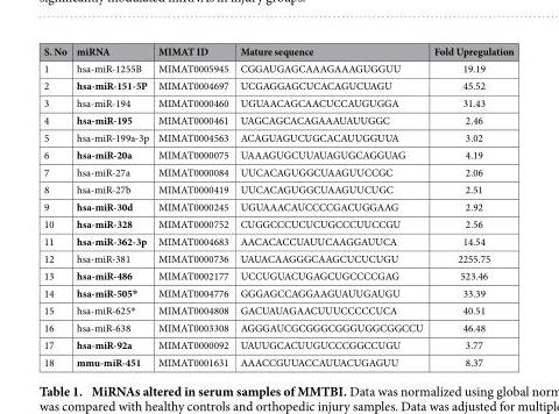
<table><thead><tr><td>S. No</td><td>miRNA</td><td>MIMAT ID</td><td>Mature sequence</td><td>Fold Upregulation</td></tr></thead><tbody><tr><td>1</td><td>hsa-miR-1255B</td><td>MIMAT0005945</td><td>CGGAUGAGCAAAGAAAGUGGUU</td><td>19.19</td></tr><tr><td>2</td><td>hsa-miR-151-5P</td><td>MIMAT0004697</td><td>UCGAGGAGCUCACAGUCUAGU</td><td>45.52</td></tr><tr><td>3</td><td>hsa-miR-194</td><td>MIMAT0000460</td><td>UGUAACAGCAACUCCAUGUGGA</td><td>31.43</td></tr><tr><td>4</td><td>hsa-miR-195</td><td>MIMAT0000461</td><td>UAGCAGCACAGAAAUAUUGGC</td><td>2.46</td></tr><tr><td>5</td><td>hsa-miR-199a-3p</td><td>MIMAT0004563</td><td>ACAGUAGUCUGCACAUUGGUUA</td><td>3.02</td></tr><tr><td>6</td><td>hsa-miR-20a</td><td>MIMAT0000075</td><td>UAAAGUGCUUAUAGUGCAGGUAG</td><td>4.19</td></tr><tr><td>7</td><td>hsa-miR-27a</td><td>MIMAT0000084</td><td>UUCACAGUGGCUAAGUUCCGC</td><td>2.06</td></tr><tr><td>8</td><td>hsa-miR-27b</td><td>MIMAT0000419</td><td>UUCACAGUGGCUAAGUUCUGC</td><td>2.51</td></tr><tr><td>9</td><td>hsa-miR-30d</td><td>MIMAT0000245</td><td>UGUAAACAUCCCCGACUGGAAG</td><td>2.92</td></tr><tr><td>10</td><td>hsa-miR-328</td><td>MIMAT0000752</td><td>CUGGCCCUCUCUGCCCUUCCGU</td><td>2.56</td></tr><tr><td>11</td><td>hsa-miR-362-3p</td><td>MIMAT0004683</td><td>AACACACCUAUUCAAGGAUUCA</td><td>14.54</td></tr><tr><td>12</td><td>hsa-miR-381</td><td>MIMAT0000736</td><td>UAUACAAGGGCAAGCUCUCUGU</td><td>2255.75</td></tr><tr><td>13</td><td>hsa-miR-486</td><td>MIMAT0002177</td><td>UCCUGUACUGAGCUGCCCCGAG</td><td>523.46</td></tr><tr><td>14</td><td>hsa-miR-505*</td><td>MIMAT0004776</td><td>GGGAGCCAGGAAGUAUUGAUGU</td><td>33.39</td></tr><tr><td>15</td><td>hsa-miR-625*</td><td>MIMAT0004808</td><td>GACUAUAGAACUUUCCCCCUCA</td><td>40.51</td></tr><tr><td>16</td><td>hsa-miR-638</td><td>MIMAT0003308</td><td>AGGGAUCGCGGGCGGGUGGCGGCCU</td><td>46.48</td></tr><tr><td>17</td><td>hsa-miR-92a</td><td>MIMAT0000092</td><td>UAUUGCACUUGUCCCGGCCUGU</td><td>3.77</td></tr><tr><td>18</td><td>mmu-miR-451</td><td>MIMAT0001631</td><td>AAACCGUUACCAUUACUGAGUU</td><td>8.37</td></tr></tbody></table>